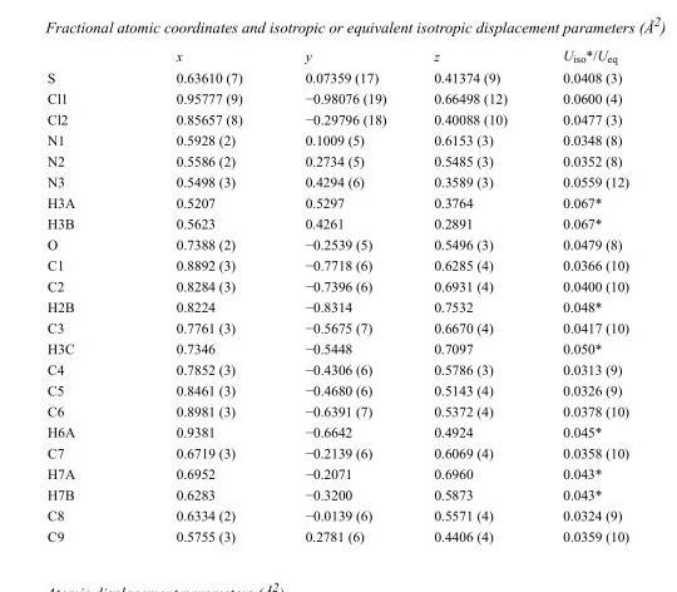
<table><thead><tr><td></td><td>x</td><td>y</td><td>z</td><td>U<sub>iso</sub>*/U<sub>eq</sub></td></tr></thead><tbody><tr><td>S</td><td>0.63610 (7)</td><td>0.07359 (17)</td><td>0.41374 (9)</td><td>0.0408 (3)</td></tr><tr><td>Cl1</td><td>0.95777 (9)</td><td>−0.98076 (19)</td><td>0.66498 (12)</td><td>0.0600 (4)</td></tr><tr><td>Cl2</td><td>0.85657 (8)</td><td>−0.29796 (18)</td><td>0.40088 (10)</td><td>0.0477 (3)</td></tr><tr><td>N1</td><td>0.5928 (2)</td><td>0.1009 (5)</td><td>0.6153 (3)</td><td>0.0348 (8)</td></tr><tr><td>N2</td><td>0.5586 (2)</td><td>0.2734 (5)</td><td>0.5485 (3)</td><td>0.0352 (8)</td></tr><tr><td>N3</td><td>0.5498 (3)</td><td>0.4294 (6)</td><td>0.3589 (3)</td><td>0.0559 (12)</td></tr><tr><td>H3A</td><td>0.5207</td><td>0.5297</td><td>0.3764</td><td>0.067*</td></tr><tr><td>H3B</td><td>0.5623</td><td>0.4261</td><td>0.2891</td><td>0.067*</td></tr><tr><td>O</td><td>0.7388 (2)</td><td>−0.2539 (5)</td><td>0.5496 (3)</td><td>0.0479 (8)</td></tr><tr><td>C1</td><td>0.8892 (3)</td><td>−0.7718 (6)</td><td>0.6285 (4)</td><td>0.0366 (10)</td></tr><tr><td>C2</td><td>0.8284 (3)</td><td>−0.7396 (6)</td><td>0.6931 (4)</td><td>0.0400 (10)</td></tr><tr><td>H2B</td><td>0.8224</td><td>−0.8314</td><td>0.7532</td><td>0.048*</td></tr><tr><td>C3</td><td>0.7761 (3)</td><td>−0.5675 (7)</td><td>0.6670 (4)</td><td>0.0417 (10)</td></tr><tr><td>H3C</td><td>0.7346</td><td>−0.5448</td><td>0.7097</td><td>0.050*</td></tr><tr><td>C4</td><td>0.7852 (3)</td><td>−0.4306 (6)</td><td>0.5786 (3)</td><td>0.0313 (9)</td></tr><tr><td>C5</td><td>0.8461 (3)</td><td>−0.4680 (6)</td><td>0.5143 (4)</td><td>0.0326 (9)</td></tr><tr><td>C6</td><td>0.8981 (3)</td><td>−0.6391 (7)</td><td>0.5372 (4)</td><td>0.0378 (10)</td></tr><tr><td>H6A</td><td>0.9381</td><td>−0.6642</td><td>0.4924</td><td>0.045*</td></tr><tr><td>C7</td><td>0.6719 (3)</td><td>−0.2139 (6)</td><td>0.6069 (4)</td><td>0.0358 (10)</td></tr><tr><td>H7A</td><td>0.6952</td><td>−0.2071</td><td>0.6960</td><td>0.043*</td></tr><tr><td>H7B</td><td>0.6283</td><td>−0.3200</td><td>0.5873</td><td>0.043*</td></tr><tr><td>C8</td><td>0.6334 (2)</td><td>−0.0139 (6)</td><td>0.5571 (4)</td><td>0.0324 (9)</td></tr><tr><td>C9</td><td>0.5755 (3)</td><td>0.2781 (6)</td><td>0.4406 (4)</td><td>0.0359 (10)</td></tr></tbody></table>